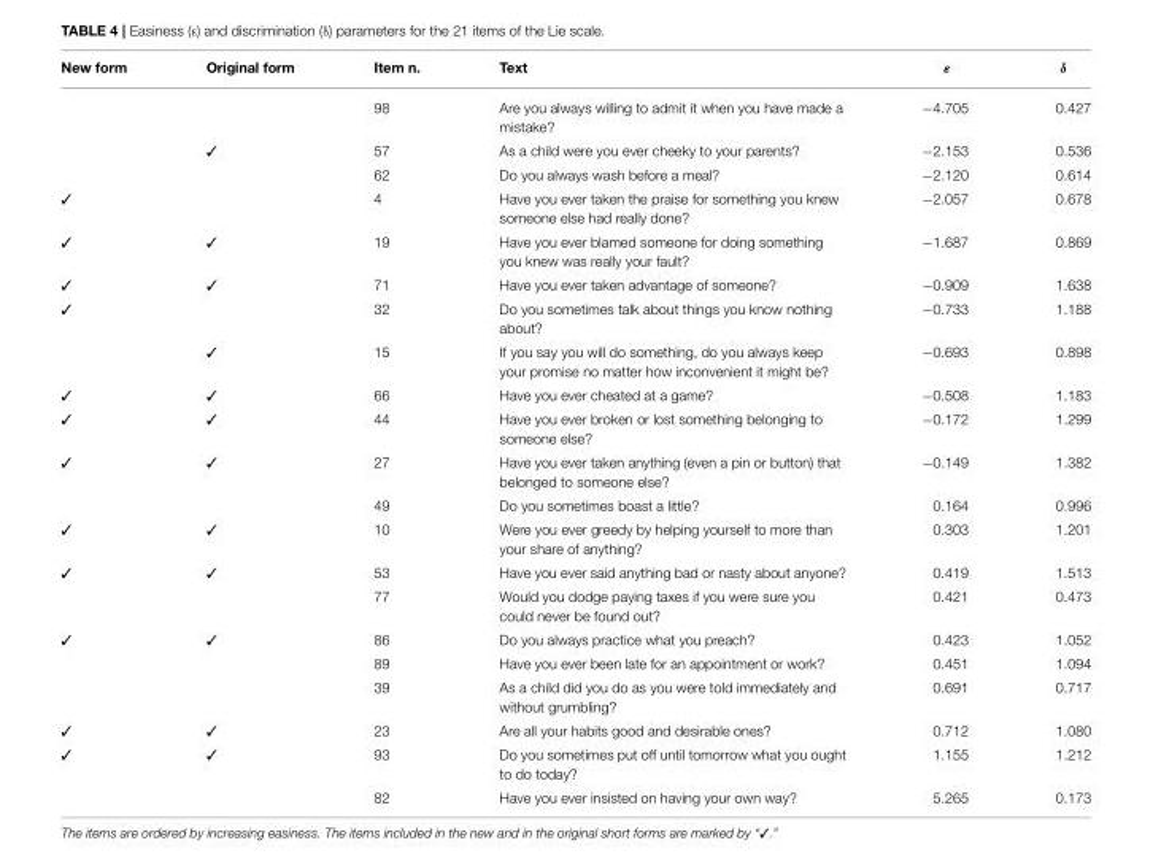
<table><thead><tr><td>New form</td><td>Original form</td><td>Item n.</td><td>Text</td><td>ε</td><td>δ</td></tr></thead><tbody><tr><td></td><td></td><td>98</td><td>Are you always willing to admit it when you have made a mistake?</td><td>−4.705</td><td>0.427</td></tr><tr><td></td><td></td><td>57</td><td>As a child were you ever cheeky to your parents?</td><td>−2.153</td><td>0.536</td></tr><tr><td></td><td></td><td>62</td><td>Do you always wash before a meal?</td><td>−2.120</td><td>0.614</td></tr><tr><td></td><td></td><td>4</td><td>Have you ever taken the praise for something you knew someone else had really done?</td><td>−2.057</td><td>0.678</td></tr><tr><td></td><td></td><td>19</td><td>Have you ever blamed someone for doing something you knew was really your fault?</td><td>−1.687</td><td>0.869</td></tr><tr><td></td><td></td><td>71</td><td>Have you ever taken advantage of someone?</td><td>−0.909</td><td>1.638</td></tr><tr><td rowspan="2"></td><td></td><td>32</td><td>Do you sometimes talk about things you know nothing about?</td><td>−0.733</td><td>1.188</td></tr><tr><td></td><td>15</td><td>If you say you will do something, do you always keep your promise no matter how inconvenient it might be?</td><td>−0.693</td><td>0.898</td></tr><tr><td></td><td></td><td>66</td><td>Have you ever cheated at a game?</td><td>−0.508</td><td>1.183</td></tr><tr><td></td><td></td><td>44</td><td>Have you ever broken or lost something belonging to someone else?</td><td>−0.172</td><td>1.299</td></tr><tr><td rowspan="2"></td><td></td><td>27</td><td>Have you ever taken anything (even a pin or button) that belonged to someone else?</td><td>−0.149</td><td>1.382</td></tr><tr><td></td><td>49</td><td>Do you sometimes boast a little?</td><td>0.164</td><td>0.996</td></tr><tr><td></td><td></td><td>10</td><td>Were you ever greedy by helping yourself to more than your share of anything?</td><td>0.303</td><td>1.201</td></tr><tr><td rowspan="2"></td><td></td><td>53</td><td>Have you ever said anything bad or nasty about anyone?</td><td>0.419</td><td>1.513</td></tr><tr><td></td><td>77</td><td>Would you dodge paying taxes if you were sure you could never be found out?</td><td>0.421</td><td>0.473</td></tr><tr><td rowspan="3"></td><td></td><td>86</td><td>Do you always practice what you preach?</td><td>0.423</td><td>1.052</td></tr><tr><td></td><td>89</td><td>Have you ever been late for an appointment or work?</td><td>0.451</td><td>1.094</td></tr><tr><td></td><td>39</td><td>As a child did you do as you were told immediately and without grumbling?</td><td>0.691</td><td>0.717</td></tr><tr><td></td><td></td><td>23</td><td>Are all your habits good and desirable ones?</td><td>0.712</td><td>1.080</td></tr><tr><td rowspan="2"></td><td></td><td>93</td><td>Do you sometimes put off until tomorrow what you ought to do today?</td><td>1.155</td><td>1.212</td></tr><tr><td></td><td>82</td><td>Have you ever insisted on having your own way?</td><td>5.265</td><td>0.173</td></tr></tbody></table>